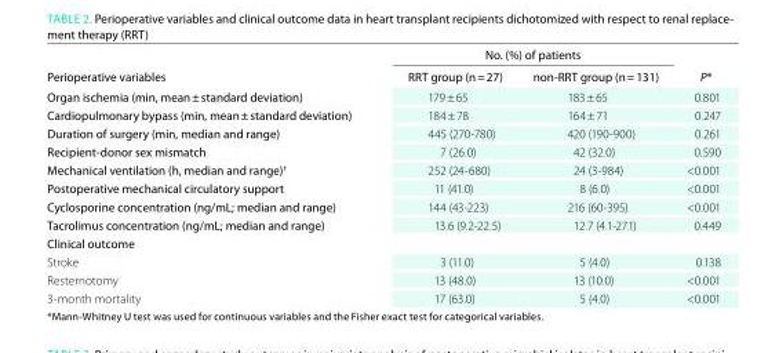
<table><thead><tr><td rowspan="2">Perioperative variables</td><td colspan="2">No. (%) of patients</td><td rowspan="2">P*</td></tr><tr><td>rrT group (n = 27)</td><td>non-rrT group (n = 131)</td></tr></thead><tbody><tr><td>Organ ischemia (min, mean ± standard deviation)</td><td>179 ± 65</td><td>183 ± 65</td><td>0.801</td></tr><tr><td>Cardiopulmonary bypass (min, mean ± standard deviation)</td><td>184 ± 78</td><td>164 ± 71</td><td>0.247</td></tr><tr><td>Duration of surgery (min, median and range)</td><td>445 (270-780)</td><td>420 (190-900)</td><td>0.261</td></tr><tr><td>recipient-donor sex mismatch</td><td>7 (26.0)</td><td>42 (32.0)</td><td>0.590</td></tr><tr><td>Mechanical ventilation (h, median and range)<sup>†</sup></td><td>252 (24-680)</td><td>24 (3-984)</td><td>&lt;0.001</td></tr><tr><td>Postoperative mechanical circulatory support</td><td>11 (41.0)</td><td>8 (6.0)</td><td>&lt;0.001</td></tr><tr><td>Cyclosporine concentration (ng/mL; median and range)</td><td>144 (43-223)</td><td>216 (60-395)</td><td>&lt;0.001</td></tr><tr><td>Tacrolimus concentration (ng/mL; median and range)</td><td>13.6 (9.2-22.5)</td><td>12.7 (4.1-27.1)</td><td>0.449</td></tr><tr><td colspan="4">Clinical outcome</td></tr><tr><td>Stroke</td><td>3 (11.0)</td><td>5 (4.0)</td><td>0.138</td></tr><tr><td>Resternotomy</td><td>13 (48.0)</td><td>13 (10.0)</td><td>&lt;0.001</td></tr><tr><td>3-month mortality</td><td>17 (63.0)</td><td>5 (4.0)</td><td>&lt;0.001</td></tr></tbody></table>